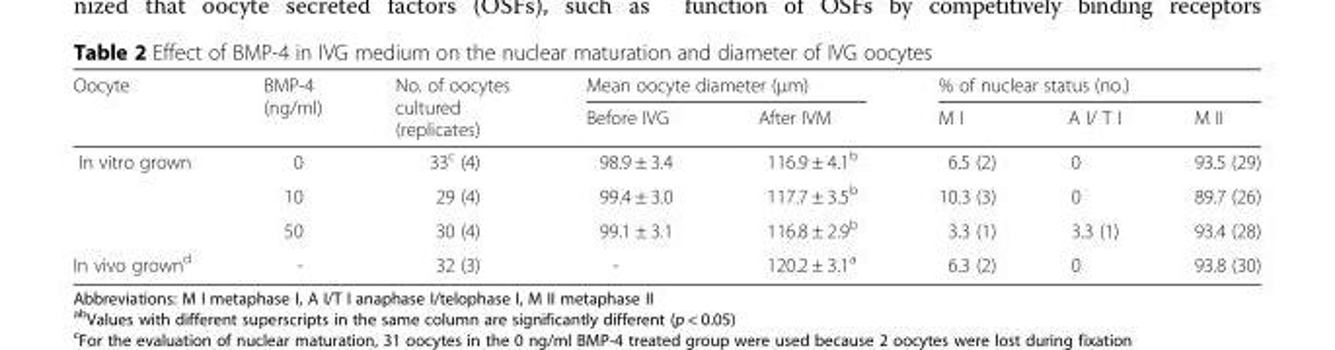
<table><thead><tr><td rowspan="2">Oocyte</td><td rowspan="2">BMP-4 (ng/ml)</td><td rowspan="2">No. of oocytes cultured (replicates)</td><td colspan="2">Mean oocyte diameter (μm)</td><td colspan="3">% of nuclear status (no.)</td></tr><tr><td>Before IVG</td><td>After IVM</td><td>M I</td><td>A I/ T I</td><td>M II</td></tr></thead><tbody><tr><td rowspan="3">In vitro grown</td><td>0</td><td>33<sup>c</sup> (4)</td><td>98.9 ± 3.4</td><td>116.9 ± 4.1<sup>b</sup></td><td>6.5 (2)</td><td>0</td><td>93.5 (29)</td></tr><tr><td>10</td><td>29 (4)</td><td>99.4 ± 3.0</td><td>117.7 ± 3.5<sup>b</sup></td><td>10.3 (3)</td><td>0</td><td>89.7 (26)</td></tr><tr><td>50</td><td>30 (4)</td><td>99.1 ± 3.1</td><td>116.8 ± 2.9<sup>b</sup></td><td>3.3 (1)</td><td>3.3 (1)</td><td>93.4 (28)</td></tr><tr><td>In vivo grown<sup>d</sup></td><td>-</td><td>32 (3)</td><td>-</td><td>120.2 ± 3.1<sup>a</sup></td><td>6.3 (2)</td><td>0</td><td>93.8 (30)</td></tr></tbody></table>